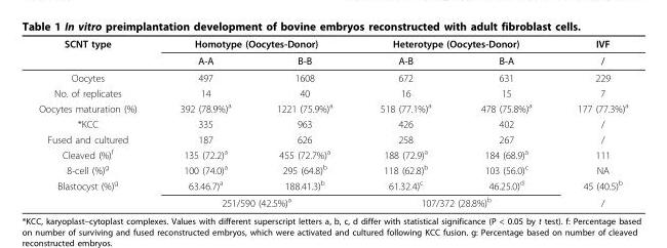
<table><thead><tr><td rowspan="2">SCNT type</td><td colspan="2">Homotype (Oocytes-Donor)</td><td colspan="2">Heterotype (Oocytes-Donor)</td><td rowspan="2">IVF /</td></tr><tr><td>A-A</td><td>B-B</td><td>A-B</td><td>B-A</td></tr></thead><tbody><tr><td>Oocytes</td><td>497</td><td>1608</td><td>672</td><td>631</td><td>229</td></tr><tr><td>No. of replicates</td><td>14</td><td>40</td><td>16</td><td>15</td><td>7</td></tr><tr><td>Oocytes maturation (%)</td><td>392 (78.9%)<sup>a</sup></td><td>1221 (75.9%)<sup>a</sup></td><td>518 (77.1%)<sup>a</sup></td><td>478 (75.8%)<sup>a</sup></td><td>177 (77.3%)<sup>a</sup></td></tr><tr><td>*KCC</td><td>335</td><td>963</td><td>426</td><td>402</td><td>/</td></tr><tr><td>Fused and cultured</td><td>187</td><td>626</td><td>258</td><td>267</td><td>/</td></tr><tr><td>Cleaved (%)<sup>f</sup></td><td>135 (72.2)<sup>a</sup></td><td>455 (72.7%)<sup>a</sup></td><td>188 (72.9)<sup>a</sup></td><td>184 (68.9)<sup>a</sup></td><td>111</td></tr><tr><td>8-cell (%)<sup>g</sup></td><td>100 (74.0)<sup>a</sup></td><td>295 (64.8)<sup>b</sup></td><td>118 (62.8)<sup>b</sup></td><td>103 (56.0)<sup>c</sup></td><td>NA</td></tr><tr><td rowspan="2">Blastocyst (%)<sup>g</sup></td><td>63.46.7)<sup>a</sup></td><td>188.41.3)<sup>b</sup></td><td>61.32.4)<sup>c</sup></td><td>46.25.0)<sup>d</sup></td><td>45 (40.5)<sup>b</sup></td></tr><tr><td colspan="2">251/590 (42.5%)<sup>a</sup></td><td colspan="2">107/372 (28.8%)<sup>b</sup></td><td>/</td></tr></tbody></table>